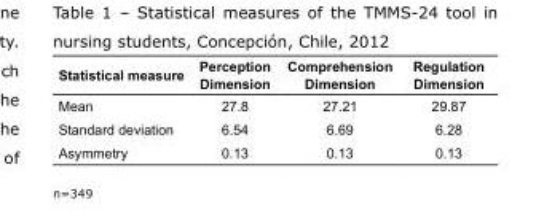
<table><thead><tr><td>Statistical measure</td><td>Perception Dimension</td><td>Comprehension Dimension</td><td>Regulation Dimension</td></tr></thead><tbody><tr><td>Mean</td><td>27.8</td><td>27.21</td><td>29.87</td></tr><tr><td>Standard deviation</td><td>6.54</td><td>6.69</td><td>6.28</td></tr><tr><td>Asymmetry</td><td>0.13</td><td>0.13</td><td>0.13</td></tr></tbody></table>